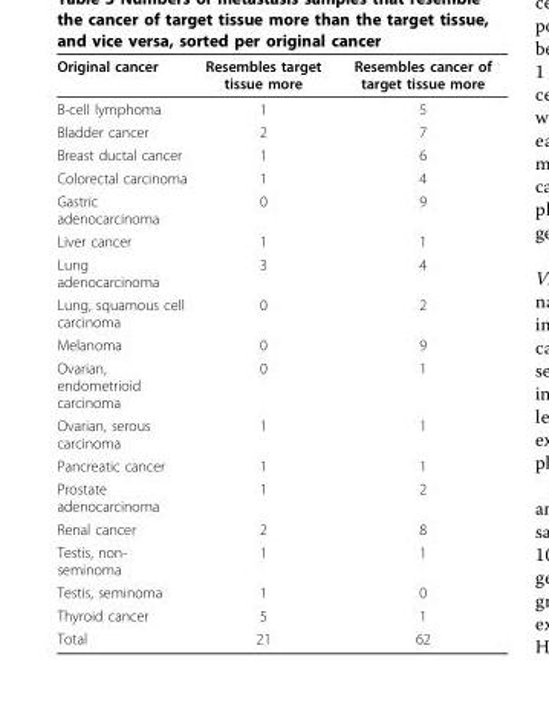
<table><thead><tr><td>Original cancer</td><td>Resembles target tissue more</td><td>Resembles cancer of target tissue more</td></tr></thead><tbody><tr><td>B-cell lymphoma</td><td>1</td><td>5</td></tr><tr><td>Bladder cancer</td><td>2</td><td>7</td></tr><tr><td>Breast ductal cancer</td><td>1</td><td>6</td></tr><tr><td>Colorectal carcinoma</td><td>1</td><td>4</td></tr><tr><td>Gastric adenocarcinoma</td><td>0</td><td>9</td></tr><tr><td>Liver cancer</td><td>1</td><td>1</td></tr><tr><td>Lung adenocarcinoma</td><td>3</td><td>4</td></tr><tr><td>Lung, squamous cell carcinoma</td><td>0</td><td>2</td></tr><tr><td>Melanoma</td><td>0</td><td>9</td></tr><tr><td>Ovarian, endometrioid carcinoma</td><td>0</td><td>1</td></tr><tr><td>Ovarian, serous carcinoma</td><td>1</td><td>1</td></tr><tr><td>Pancreatic cancer</td><td>1</td><td>1</td></tr><tr><td>Prostate adenocarcinoma</td><td>1</td><td>2</td></tr><tr><td>Renal cancer</td><td>2</td><td>8</td></tr><tr><td>Testis, non- seminoma</td><td>1</td><td>1</td></tr><tr><td>Testis, seminoma</td><td>1</td><td>0</td></tr><tr><td>Thyroid cancer</td><td>5</td><td>1</td></tr><tr><td>Total</td><td>21</td><td>62</td></tr></tbody></table>